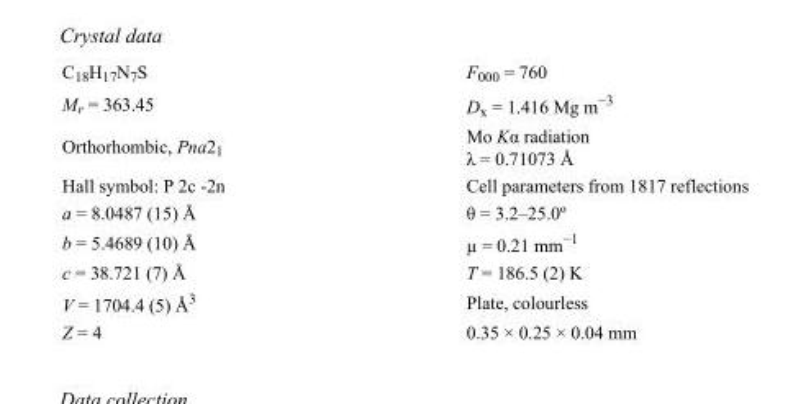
<table><tbody><tr><td>C<sub>18</sub>H<sub>17</sub>N<sub>7</sub>S</td><td>F<sub>000</sub> = 760</td></tr><tr><td>M<sub>r</sub> = 363.45</td><td>D<sub>x</sub> = 1.416 Mg m<sup>−3</sup></td></tr><tr><td>Orthorhombic, Pna2<sub>1</sub></td><td>Mo Kα radiation λ = 0.71073 Å</td></tr><tr><td>Hall symbol: P 2c -2n</td><td>Cell parameters from 1817 reflections</td></tr><tr><td>a = 8.0487 (15) Å</td><td>θ = 3.2–25.0º</td></tr><tr><td>b = 5.4689 (10) Å</td><td>µ = 0.21 mm<sup>−1</sup></td></tr><tr><td>c = 38.721 (7) Å</td><td>T = 186.5 (2) K</td></tr><tr><td>V = 1704.4 (5) Å<sup>3</sup></td><td>Plate, colourless</td></tr><tr><td>Z = 4</td><td>0.35 × 0.25 × 0.04 mm</td></tr></tbody></table>